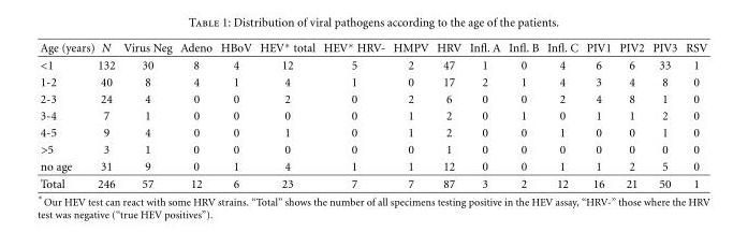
<table><thead><tr><td>Age (years)</td><td>N</td><td>Virus Neg</td><td>Adeno</td><td>HBoV</td><td>HEV∗ total</td><td>HEV∗ HRV-</td><td>HMPV</td><td>HRV</td><td>Infl. A</td><td>Infl. B</td><td>Infl. C</td><td>PIV1</td><td>PIV2</td><td>PIV3</td><td>RSV</td></tr></thead><tbody><tr><td>&lt;1</td><td>132</td><td>30</td><td>8</td><td>4</td><td>12</td><td>5</td><td>2</td><td>47</td><td>1</td><td>0</td><td>4</td><td>6</td><td>6</td><td>33</td><td>1</td></tr><tr><td>1-2</td><td>40</td><td>8</td><td>4</td><td>1</td><td>4</td><td>1</td><td>0</td><td>17</td><td>2</td><td>1</td><td>4</td><td>3</td><td>4</td><td>8</td><td>0</td></tr><tr><td>2-3</td><td>24</td><td>4</td><td>0</td><td>0</td><td>2</td><td>0</td><td>2</td><td>6</td><td>0</td><td>0</td><td>2</td><td>4</td><td>8</td><td>1</td><td>0</td></tr><tr><td>3-4</td><td>7</td><td>1</td><td>0</td><td>0</td><td>0</td><td>0</td><td>1</td><td>2</td><td>0</td><td>1</td><td>0</td><td>1</td><td>1</td><td>2</td><td>0</td></tr><tr><td>4-5</td><td>9</td><td>4</td><td>0</td><td>0</td><td>1</td><td>0</td><td>1</td><td>2</td><td>0</td><td>0</td><td>1</td><td>0</td><td>0</td><td>1</td><td>0</td></tr><tr><td>&gt;5</td><td>3</td><td>1</td><td>0</td><td>0</td><td>0</td><td>0</td><td>0</td><td>1</td><td>0</td><td>0</td><td>0</td><td>0</td><td>0</td><td>0</td><td>0</td></tr><tr><td>no age</td><td>31</td><td>9</td><td>0</td><td>1</td><td>4</td><td>1</td><td>1</td><td>12</td><td>0</td><td>0</td><td>1</td><td>1</td><td>2</td><td>5</td><td>0</td></tr><tr><td>Total</td><td>246</td><td>57</td><td>12</td><td>6</td><td>23</td><td>7</td><td>7</td><td>87</td><td>3</td><td>2</td><td>12</td><td>16</td><td>21</td><td>50</td><td>1</td></tr></tbody></table>